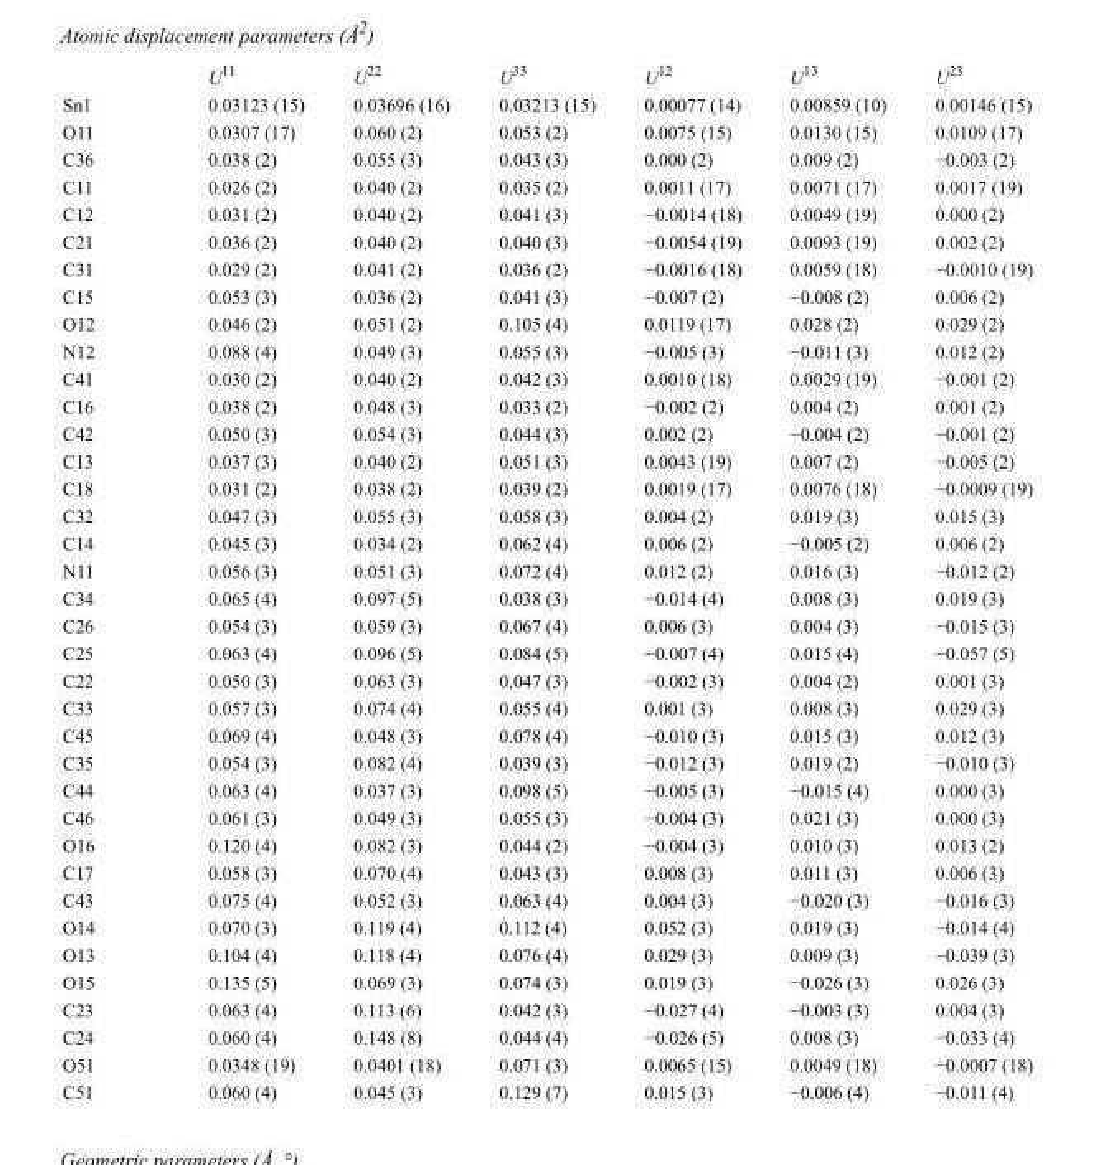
<table><thead><tr><td></td><td>U<sup>11</sup></td><td>U<sup>22</sup></td><td>U<sup>33</sup></td><td>U<sup>12</sup></td><td>U<sup>13</sup></td><td>U<sup>23</sup></td></tr></thead><tbody><tr><td>Sn1</td><td>0.03123 (15)</td><td>0.03696 (16)</td><td>0.03213 (15)</td><td>0.00077 (14)</td><td>0.00859 (10)</td><td>0.00146 (15)</td></tr><tr><td>O11</td><td>0.0307 (17)</td><td>0.060 (2)</td><td>0.053 (2)</td><td>0.0075 (15)</td><td>0.0130 (15)</td><td>0.0109 (17)</td></tr><tr><td>C36</td><td>0.038 (2)</td><td>0.055 (3)</td><td>0.043 (3)</td><td>0.000 (2)</td><td>0.009 (2)</td><td>−0.003 (2)</td></tr><tr><td>C11</td><td>0.026 (2)</td><td>0.040 (2)</td><td>0.035 (2)</td><td>0.0011 (17)</td><td>0.0071 (17)</td><td>0.0017 (19)</td></tr><tr><td>C12</td><td>0.031 (2)</td><td>0.040 (2)</td><td>0.041 (3)</td><td>−0.0014 (18)</td><td>0.0049 (19)</td><td>0.000 (2)</td></tr><tr><td>C21</td><td>0.036 (2)</td><td>0.040 (2)</td><td>0.040 (3)</td><td>−0.0054 (19)</td><td>0.0093 (19)</td><td>0.002 (2)</td></tr><tr><td>C31</td><td>0.029 (2)</td><td>0.041 (2)</td><td>0.036 (2)</td><td>−0.0016 (18)</td><td>0.0059 (18)</td><td>−0.0010 (19)</td></tr><tr><td>C15</td><td>0.053 (3)</td><td>0.036 (2)</td><td>0.041 (3)</td><td>−0.007 (2)</td><td>−0.008 (2)</td><td>0.006 (2)</td></tr><tr><td>O12</td><td>0.046 (2)</td><td>0.051 (2)</td><td>0.105 (4)</td><td>0.0119 (17)</td><td>0.028 (2)</td><td>0.029 (2)</td></tr><tr><td>N12</td><td>0.088 (4)</td><td>0.049 (3)</td><td>0.055 (3)</td><td>−0.005 (3)</td><td>−0.011 (3)</td><td>0.012 (2)</td></tr><tr><td>C41</td><td>0.030 (2)</td><td>0.040 (2)</td><td>0.042 (3)</td><td>0.0010 (18)</td><td>0.0029 (19)</td><td>−0.001 (2)</td></tr><tr><td>C16</td><td>0.038 (2)</td><td>0.048 (3)</td><td>0.033 (2)</td><td>−0.002 (2)</td><td>0.004 (2)</td><td>0.001 (2)</td></tr><tr><td>C42</td><td>0.050 (3)</td><td>0.054 (3)</td><td>0.044 (3)</td><td>0.002 (2)</td><td>−0.004 (2)</td><td>−0.001 (2)</td></tr><tr><td>C13</td><td>0.037 (3)</td><td>0.040 (2)</td><td>0.051 (3)</td><td>0.0043 (19)</td><td>0.007 (2)</td><td>−0.005 (2)</td></tr><tr><td>C18</td><td>0.031 (2)</td><td>0.038 (2)</td><td>0.039 (2)</td><td>0.0019 (17)</td><td>0.0076 (18)</td><td>−0.0009 (19)</td></tr><tr><td>C32</td><td>0.047 (3)</td><td>0.055 (3)</td><td>0.058 (3)</td><td>0.004 (2)</td><td>0.019 (3)</td><td>0.015 (3)</td></tr><tr><td>C14</td><td>0.045 (3)</td><td>0.034 (2)</td><td>0.062 (4)</td><td>0.006 (2)</td><td>−0.005 (2)</td><td>0.006 (2)</td></tr><tr><td>N11</td><td>0.056 (3)</td><td>0.051 (3)</td><td>0.072 (4)</td><td>0.012 (2)</td><td>0.016 (3)</td><td>−0.012 (2)</td></tr><tr><td>C34</td><td>0.065 (4)</td><td>0.097 (5)</td><td>0.038 (3)</td><td>−0.014 (4)</td><td>0.008 (3)</td><td>0.019 (3)</td></tr><tr><td>C26</td><td>0.054 (3)</td><td>0.059 (3)</td><td>0.067 (4)</td><td>0.006 (3)</td><td>0.004 (3)</td><td>−0.015 (3)</td></tr><tr><td>C25</td><td>0.063 (4)</td><td>0.096 (5)</td><td>0.084 (5)</td><td>−0.007 (4)</td><td>0.015 (4)</td><td>−0.057 (5)</td></tr><tr><td>C22</td><td>0.050 (3)</td><td>0.063 (3)</td><td>0.047 (3)</td><td>−0.002 (3)</td><td>0.004 (2)</td><td>0.001 (3)</td></tr><tr><td>C33</td><td>0.057 (3)</td><td>0.074 (4)</td><td>0.055 (4)</td><td>0.001 (3)</td><td>0.008 (3)</td><td>0.029 (3)</td></tr><tr><td>C45</td><td>0.069 (4)</td><td>0.048 (3)</td><td>0.078 (4)</td><td>−0.010 (3)</td><td>0.015 (3)</td><td>0.012 (3)</td></tr><tr><td>C35</td><td>0.054 (3)</td><td>0.082 (4)</td><td>0.039 (3)</td><td>−0.012 (3)</td><td>0.019 (2)</td><td>−0.010 (3)</td></tr><tr><td>C44</td><td>0.063 (4)</td><td>0.037 (3)</td><td>0.098 (5)</td><td>−0.005 (3)</td><td>−0.015 (4)</td><td>0.000 (3)</td></tr><tr><td>C46</td><td>0.061 (3)</td><td>0.049 (3)</td><td>0.055 (3)</td><td>−0.004 (3)</td><td>0.021 (3)</td><td>0.000 (3)</td></tr><tr><td>O16</td><td>0.120 (4)</td><td>0.082 (3)</td><td>0.044 (2)</td><td>−0.004 (3)</td><td>0.010 (3)</td><td>0.013 (2)</td></tr><tr><td>C17</td><td>0.058 (3)</td><td>0.070 (4)</td><td>0.043 (3)</td><td>0.008 (3)</td><td>0.011 (3)</td><td>0.006 (3)</td></tr><tr><td>C43</td><td>0.075 (4)</td><td>0.052 (3)</td><td>0.063 (4)</td><td>0.004 (3)</td><td>−0.020 (3)</td><td>−0.016 (3)</td></tr><tr><td>O14</td><td>0.070 (3)</td><td>0.119 (4)</td><td>0.112 (4)</td><td>0.052 (3)</td><td>0.019 (3)</td><td>−0.014 (4)</td></tr><tr><td>O13</td><td>0.104 (4)</td><td>0.118 (4)</td><td>0.076 (4)</td><td>0.029 (3)</td><td>0.009 (3)</td><td>−0.039 (3)</td></tr><tr><td>O15</td><td>0.135 (5)</td><td>0.069 (3)</td><td>0.074 (3)</td><td>0.019 (3)</td><td>−0.026 (3)</td><td>0.026 (3)</td></tr><tr><td>C23</td><td>0.063 (4)</td><td>0.113 (6)</td><td>0.042 (3)</td><td>−0.027 (4)</td><td>−0.003 (3)</td><td>0.004 (3)</td></tr><tr><td>C24</td><td>0.060 (4)</td><td>0.148 (8)</td><td>0.044 (4)</td><td>−0.026 (5)</td><td>0.008 (3)</td><td>−0.033 (4)</td></tr><tr><td>O51</td><td>0.0348 (19)</td><td>0.0401 (18)</td><td>0.071 (3)</td><td>0.0065 (15)</td><td>0.0049 (18)</td><td>−0.0007 (18)</td></tr><tr><td>C51</td><td>0.060 (4)</td><td>0.045 (3)</td><td>0.129 (7)</td><td>0.015 (3)</td><td>−0.006 (4)</td><td>−0.011 (4)</td></tr></tbody></table>